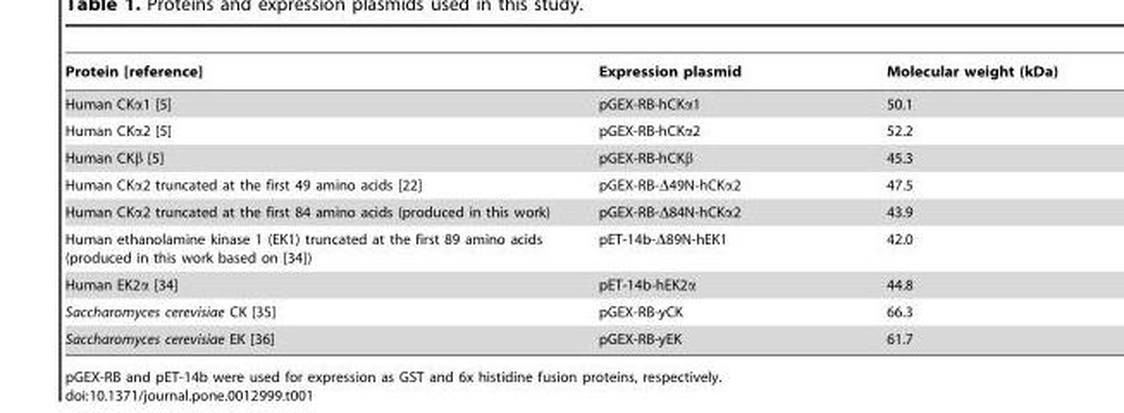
<table><thead><tr><td>Protein [reference]</td><td>Expression plasmid</td><td>Molecular weight (kDa)</td></tr></thead><tbody><tr><td>Human CKα1 [5]</td><td>pGEX-RB-hCKα1</td><td>50.1</td></tr><tr><td>Human CKα2 [5]</td><td>pGEX-RB-hCKα2</td><td>52.2</td></tr><tr><td>Human CKβ [5]</td><td>pGEX-RB-hCKβ</td><td>45.3</td></tr><tr><td>Human CKα2 truncated at the first 49 amino acids [22]</td><td>pGEX-RB-Δ49N-hCKα2</td><td>47.5</td></tr><tr><td>Human CKα2 truncated at the first 84 amino acids (produced in this work)</td><td>pGEX-RB-Δ84N-hCKα2</td><td>43.9</td></tr><tr><td>Human ethanolamine kinase 1 (EK1) truncated at the first 89 amino acids (produced in this work based on [34])</td><td>pET-14b-Δ89N-hEK1</td><td>42.0</td></tr><tr><td>Human EK2α [34]</td><td>pET-14b-hEK2α</td><td>44.8</td></tr><tr><td>Saccharomyces cerevisiae CK [35]</td><td>pGEX-RB-yCK</td><td>66.3</td></tr><tr><td>Saccharomyces cerevisiae EK [36]</td><td>pGEX-RB-yEK</td><td>61.7</td></tr></tbody></table>